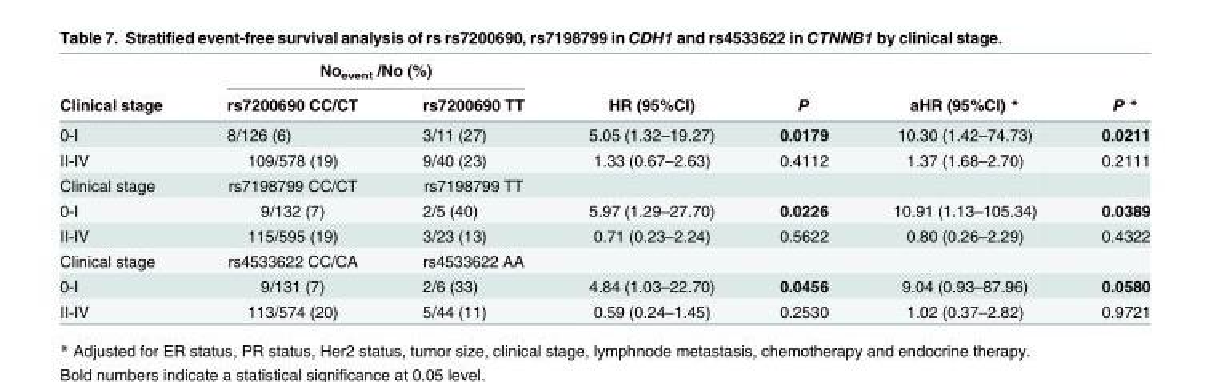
<table><thead><tr><td rowspan="2">Clinical stage</td><td colspan="2">No<sub>event</sub> /No (%)</td><td rowspan="2">HR (95%CI)</td><td rowspan="2">P</td><td rowspan="2">aHR (95%CI) *</td><td rowspan="2">P *</td></tr><tr><td>rs7200690 CC/CT</td><td>rs7200690 TT</td></tr></thead><tbody><tr><td>0-I</td><td>8/126 (6)</td><td>3/11 (27)</td><td>5.05 (1.32–19.27)</td><td>0.0179</td><td>10.30 (1.42–74.73)</td><td>0.0211</td></tr><tr><td>II-IV</td><td>109/578 (19)</td><td>9/40 (23)</td><td>1.33 (0.67–2.63)</td><td>0.4112</td><td>1.37 (1.68–2.70)</td><td>0.2111</td></tr><tr><td>Clinical stage</td><td>rs7198799 CC/CT</td><td>rs7198799 TT</td><td></td><td></td><td></td><td></td></tr><tr><td>0-I</td><td>9/132 (7)</td><td>2/5 (40)</td><td>5.97 (1.29–27.70)</td><td>0.0226</td><td>10.91 (1.13–105.34)</td><td>0.0389</td></tr><tr><td>II-IV</td><td>115/595 (19)</td><td>3/23 (13)</td><td>0.71 (0.23–2.24)</td><td>0.5622</td><td>0.80 (0.26–2.29)</td><td>0.4322</td></tr><tr><td>Clinical stage</td><td>rs4533622 CC/CA</td><td>rs4533622 AA</td><td></td><td></td><td></td><td></td></tr><tr><td>0-I</td><td>9/131 (7)</td><td>2/6 (33)</td><td>4.84 (1.03–22.70)</td><td>0.0456</td><td>9.04 (0.93–87.96)</td><td>0.0580</td></tr><tr><td>II-IV</td><td>113/574 (20)</td><td>5/44 (11)</td><td>0.59 (0.24–1.45)</td><td>0.2530</td><td>1.02 (0.37–2.82)</td><td>0.9721</td></tr></tbody></table>